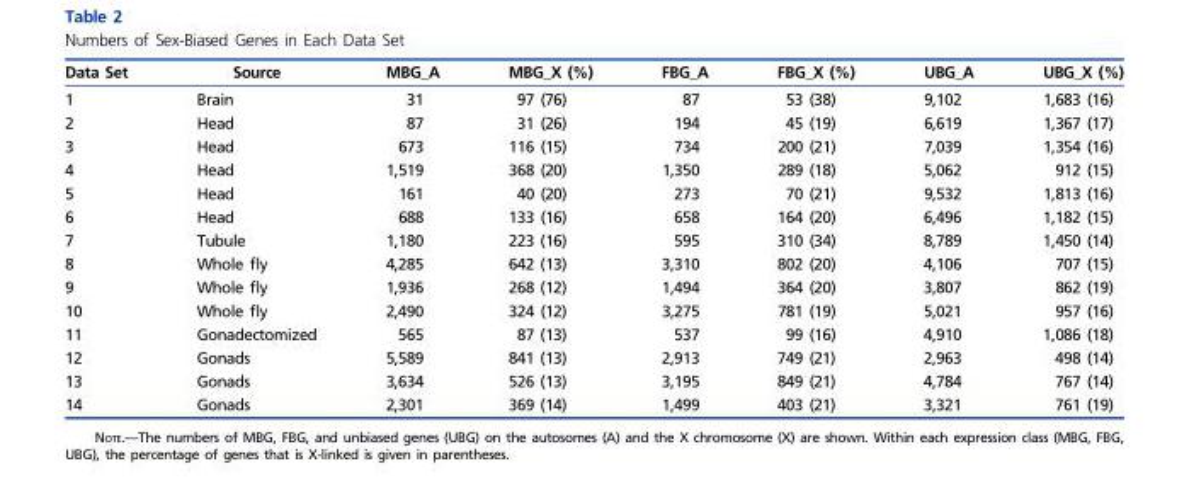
<table><thead><tr><td>Data Set</td><td>Source</td><td>MBG_A</td><td>MBG_X (%)</td><td>FBG_A</td><td>FBG_X (%)</td><td>UBG_A</td><td>UBG_X (%)</td></tr></thead><tbody><tr><td>1</td><td>Brain</td><td>31</td><td>97 (76)</td><td>87</td><td>53 (38)</td><td>9,102</td><td>1,683 (16)</td></tr><tr><td>2</td><td>Head</td><td>87</td><td>31 (26)</td><td>194</td><td>45 (19)</td><td>6,619</td><td>1,367 (17)</td></tr><tr><td>3</td><td>Head</td><td>673</td><td>116 (15)</td><td>734</td><td>200 (21)</td><td>7,039</td><td>1,354 (16)</td></tr><tr><td>4</td><td>Head</td><td>1,519</td><td>368 (20)</td><td>1,350</td><td>289 (18)</td><td>5,062</td><td>912 (15)</td></tr><tr><td>5</td><td>Head</td><td>161</td><td>40 (20)</td><td>273</td><td>70 (21)</td><td>9,532</td><td>1,813 (16)</td></tr><tr><td>6</td><td>Head</td><td>688</td><td>133 (16)</td><td>658</td><td>164 (20)</td><td>6,496</td><td>1,182 (15)</td></tr><tr><td>7</td><td>Tubule</td><td>1,180</td><td>223 (16)</td><td>595</td><td>310 (34)</td><td>8,789</td><td>1,450 (14)</td></tr><tr><td>8</td><td>Whole fly</td><td>4,285</td><td>642 (13)</td><td>3,310</td><td>802 (20)</td><td>4,106</td><td>707 (15)</td></tr><tr><td>9</td><td>Whole fly</td><td>1,936</td><td>268 (12)</td><td>1,494</td><td>364 (20)</td><td>3,807</td><td>862 (19)</td></tr><tr><td>10</td><td>Whole fly</td><td>2,490</td><td>324 (12)</td><td>3,275</td><td>781 (19)</td><td>5,021</td><td>957 (16)</td></tr><tr><td>11</td><td>Gonadectomized</td><td>565</td><td>87 (13)</td><td>537</td><td>99 (16)</td><td>4,910</td><td>1,086 (18)</td></tr><tr><td>12</td><td>Gonads</td><td>5,589</td><td>841 (13)</td><td>2,913</td><td>749 (21)</td><td>2,963</td><td>498 (14)</td></tr><tr><td>13</td><td>Gonads</td><td>3,634</td><td>526 (13)</td><td>3,195</td><td>849 (21)</td><td>4,784</td><td>767 (14)</td></tr><tr><td>14</td><td>Gonads</td><td>2,301</td><td>369 (14)</td><td>1,499</td><td>403 (21)</td><td>3,321</td><td>761 (19)</td></tr></tbody></table>